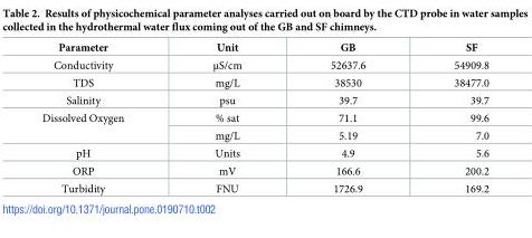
<table><thead><tr><td>Parameter</td><td>Unit</td><td>GB</td><td>SF</td></tr></thead><tbody><tr><td>Conductivity</td><td>μS/cm</td><td>52637.6</td><td>54909.8</td></tr><tr><td>TDS</td><td>mg/L</td><td>38530</td><td>38477.0</td></tr><tr><td>Salinity</td><td>psu</td><td>39.7</td><td>39.7</td></tr><tr><td rowspan="2">Dissolved Oxygen</td><td>% sat</td><td>71.1</td><td>99.6</td></tr><tr><td>mg/L</td><td>5.19</td><td>7.0</td></tr><tr><td>pH</td><td>Units</td><td>4.9</td><td>5.6</td></tr><tr><td>ORP</td><td>mV</td><td>166.6</td><td>200.2</td></tr><tr><td>Turbidity</td><td>FNU</td><td>1726.9</td><td>169.2</td></tr></tbody></table>